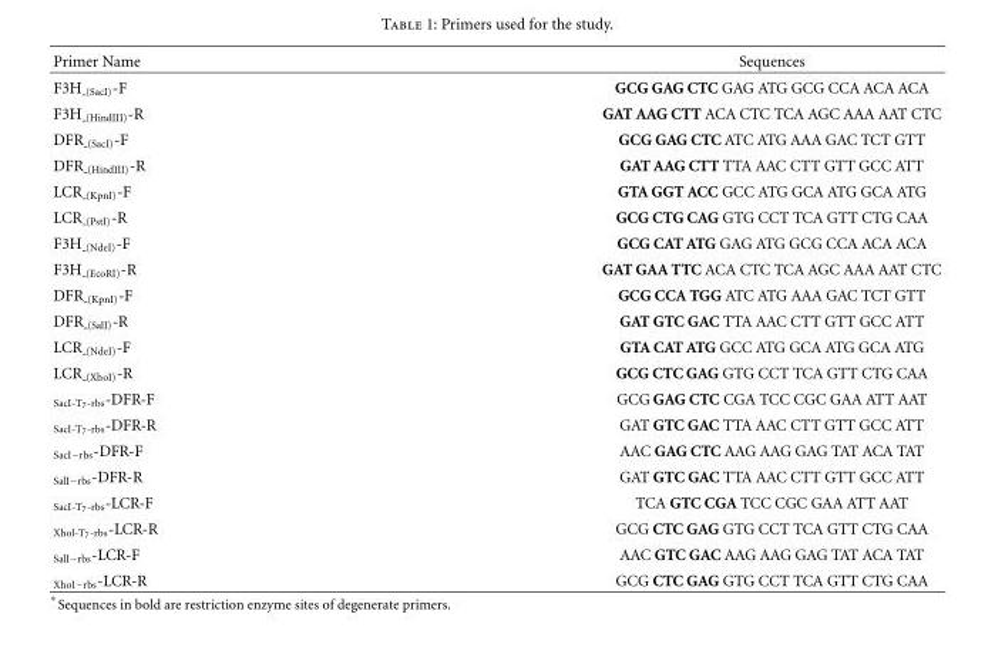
<table><thead><tr><td>Primer Name</td><td>Sequences</td></tr></thead><tbody><tr><td>F3H (SacI)-F</td><td>GCG GAG CTC GAG ATG GCG CCA ACA ACA</td></tr><tr><td>F3H (HindIII)-R</td><td>GAT AAG CTT ACA CTC TCA AGC AAA AAT CTC</td></tr><tr><td>DFR (SacI)-F</td><td>GCG GAG CTC ATC ATG AAA GAC TCT GTT</td></tr><tr><td>DFR (HindIII)-R</td><td>GAT AAG CTT TTA AAC CTT GTT GCC ATT</td></tr><tr><td>LCR (KpnI)-F</td><td>GTA GGT ACC GCC ATG GCA ATG GCA ATG</td></tr><tr><td>LCR (PstI)-R</td><td>GCG CTG CAG GTG CCT TCA GTT CTG CAA</td></tr><tr><td>F3H (NdeI)-F</td><td>GCG CAT ATG GAG ATG GCG CCA ACA ACA</td></tr><tr><td>F3H (EcoRI)-R</td><td>GAT GAA TTC ACA CTC TCA AGC AAA AAT CTC</td></tr><tr><td>DFR (KpnI)-F</td><td>GCG CCA TGG ATC ATG AAA GAC TCT GTT</td></tr><tr><td>DFR (SalI)-R</td><td>GAT GTC GAC TTA AAC CTT GTT GCC ATT</td></tr><tr><td>LCR (NdeI)-F</td><td>GTA CAT ATG GCC ATG GCA ATG GCA ATG</td></tr><tr><td>LCR (XhoI)-R</td><td>GCG CTC GAG GTG CCT TCA GTT CTG CAA</td></tr><tr><td><sub>SacI-T</sub>7<sub>-rbs</sub>-DFR-F</td><td>GCG GAG CTC CGA TCC CGC GAA ATT AAT</td></tr><tr><td><sub>SacI-T</sub>7<sub>-rbs</sub>-DFR-R</td><td>GAT GTC GAC TTA AAC CTT GTT GCC ATT</td></tr><tr><td><sub>SacI−rbs</sub>-DFR-F</td><td>AAC GAG CTC AAG AAG GAG TAT ACA TAT</td></tr><tr><td><sub>SalI−rbs</sub>-DFR-R</td><td>GAT GTC GAC TTA AAC CTT GTT GCC ATT</td></tr><tr><td><sub>SacI-T</sub>7<sub>-rbs</sub>-LCR-F</td><td>TCA GTC CGA TCC CGC GAA ATT AAT</td></tr><tr><td><sub>Xhol-T</sub>7<sub>-rbs</sub>-LCR-R</td><td>GCG CTC GAG GTG CCT TCA GTT CTG CAA</td></tr><tr><td><sub>SalI−rbs</sub>-LCR-F</td><td>AAC GTC GAC AAG AAG GAG TAT ACA TAT</td></tr><tr><td><sub>XhoI−rbs</sub>-LCR-R</td><td>GCG CTC GAG GTG CCT TCA GTT CTG CAA</td></tr></tbody></table>